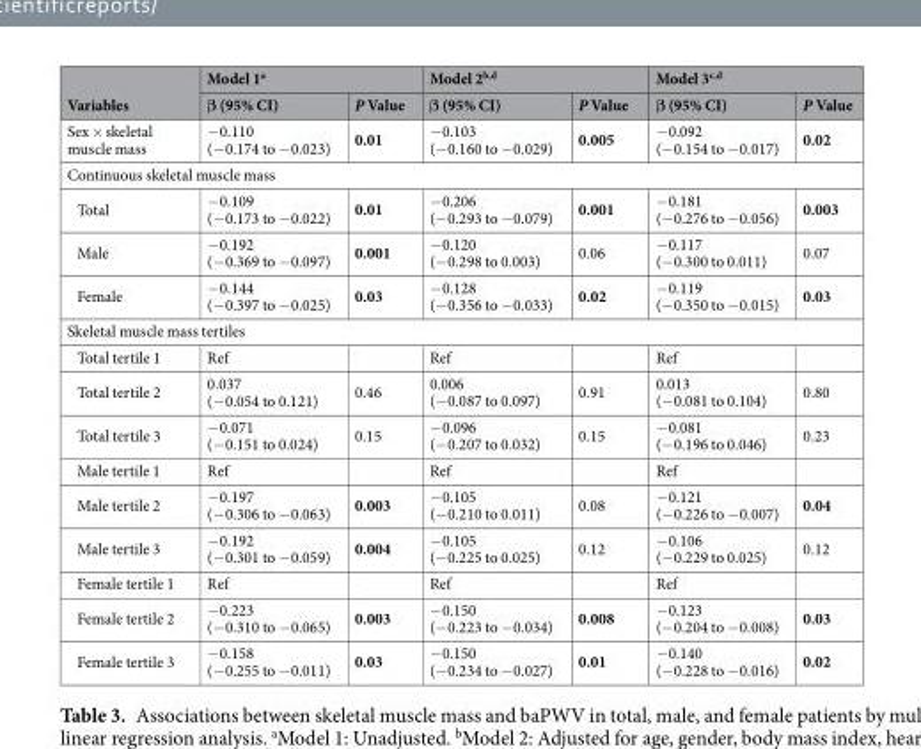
<table><thead><tr><td rowspan="2">Variables</td><td colspan="2">Model 1<sup>a</sup></td><td colspan="2">Model 2<sup>b,d</sup></td><td colspan="2">Model 3<sup>c,d</sup></td></tr><tr><td>β (95% CI)</td><td>P Value</td><td>β (95% CI)</td><td>P Value</td><td>β (95% CI)</td><td>P Value</td></tr></thead><tbody><tr><td>Sex × skeletal muscle mass</td><td>−0.110 (−0.174 to −0.023)</td><td>0.01</td><td>−0.103 (−0.160 to −0.029)</td><td>0.005</td><td>−0.092 (−0.154 to −0.017)</td><td>0.02</td></tr><tr><td colspan="7">Continuous skeletal muscle mass</td></tr><tr><td>Total</td><td>−0.109 (−0.173 to −0.022)</td><td>0.01</td><td>−0.206 (−0.293 to −0.079)</td><td>0.001</td><td>−0.181 (−0.276 to −0.056)</td><td>0.003</td></tr><tr><td>Male</td><td>−0.192 (−0.369 to −0.097)</td><td>0.001</td><td>−0.120 (−0.298 to 0.003)</td><td>0.06</td><td>−0.117 (−0.300 to 0.011)</td><td>0.07</td></tr><tr><td>Female</td><td>−0.144 (−0.397 to −0.025)</td><td>0.03</td><td>−0.128 (−0.356 to −0.033)</td><td>0.02</td><td>−0.119 (−0.350 to −0.015)</td><td>0.03</td></tr><tr><td colspan="7">Skeletal muscle mass tertiles</td></tr><tr><td>Total tertile 1</td><td>Ref</td><td></td><td>Ref</td><td></td><td>Ref</td><td></td></tr><tr><td>Total tertile 2</td><td>0.037 (−0.054 to 0.121)</td><td>0.46</td><td>0.006 (−0.087 to 0.097)</td><td>0.91</td><td>0.013 (−0.081 to 0.104)</td><td>0.80</td></tr><tr><td>Total tertile 3</td><td>−0.071 (−0.151 to 0.024)</td><td>0.15</td><td>−0.096 (−0.207 to 0.032)</td><td>0.15</td><td>−0.081 (−0.196 to 0.046)</td><td>0.23</td></tr><tr><td>Male tertile 1</td><td>Ref</td><td></td><td>Ref</td><td></td><td>Ref</td><td></td></tr><tr><td>Male tertile 2</td><td>−0.197 (−0.306 to −0.063)</td><td>0.003</td><td>−0.105 (−0.210 to 0.011)</td><td>0.08</td><td>−0.121 (−0.226 to −0.007)</td><td>0.04</td></tr><tr><td>Male tertile 3</td><td>−0.192 (−0.301 to −0.059)</td><td>0.004</td><td>−0.105 (−0.225 to 0.025)</td><td>0.12</td><td>−0.106 (−0.229 to 0.025)</td><td>0.12</td></tr><tr><td>Female tertile 1</td><td>Ref</td><td></td><td>Ref</td><td></td><td>Ref</td><td></td></tr><tr><td>Female tertile 2</td><td>−0.223 (−0.310 to −0.065)</td><td>0.003</td><td>−0.150 (−0.223 to −0.034)</td><td>0.008</td><td>−0.123 (−0.204 to −0.008)</td><td>0.03</td></tr><tr><td>Female tertile 3</td><td>−0.158 (−0.255 to −0.011)</td><td>0.03</td><td>−0.150 (−0.234 to −0.027)</td><td>0.01</td><td>−0.140 (−0.228 to −0.016)</td><td>0.02</td></tr></tbody></table>